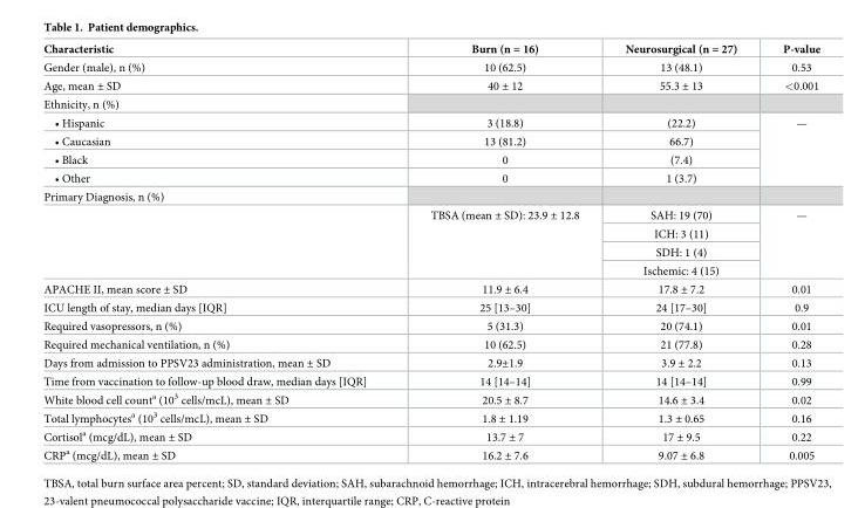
<table><thead><tr><td>Characteristic</td><td>Burn (n = 16)</td><td>Neurosurgical (n = 27)</td><td>P-value</td></tr></thead><tbody><tr><td>Gender (male), n (%)</td><td>10 (62.5)</td><td>13 (48.1)</td><td>0.53</td></tr><tr><td>Age, mean ± SD</td><td>40 ± 12</td><td>55.3 ± 13</td><td>&lt;0.001</td></tr><tr><td colspan="4">Ethnicity, n (%)</td></tr><tr><td>• Hispanic</td><td>3 (18.8)</td><td>(22.2)</td><td rowspan="4">—</td></tr><tr><td>• Caucasian</td><td>13 (81.2)</td><td>66.7)</td></tr><tr><td>• Black</td><td>0</td><td>(7.4)</td></tr><tr><td>• Other</td><td>0</td><td>1 (3.7)</td></tr><tr><td colspan="4">Primary Diagnosis, n (%)</td></tr><tr><td rowspan="4"></td><td rowspan="4">TBSA (mean ± SD): 23.9 ± 12.8</td><td>SAH: 19 (70)</td><td rowspan="4">—</td></tr><tr><td>ICH: 3 (11)</td></tr><tr><td>SDH: 1 (4)</td></tr><tr><td>Ischemic: 4 (15)</td></tr><tr><td>APACHE II, mean score ± SD</td><td>11.9 ± 6.4</td><td>17.8 ± 7.2</td><td>0.01</td></tr><tr><td>ICU length of stay, median days [IQR]</td><td>25 [13–30]</td><td>24 [17–30]</td><td>0.9</td></tr><tr><td>Required vasopressors, n (%)</td><td>5 (31.3)</td><td>20 (74.1)</td><td>0.01</td></tr><tr><td>Required mechanical ventilation, n (%)</td><td>10 (62.5)</td><td>21 (77.8)</td><td>0.28</td></tr><tr><td>Days from admission to PPSV23 administration, mean ± SD</td><td>2.9±1.9</td><td>3.9 ± 2.2</td><td>0.13</td></tr><tr><td>Time from vaccination to follow-up blood draw, median days [IQR]</td><td>14 [14–14]</td><td>14 [14–14]</td><td>0.99</td></tr><tr><td>White blood cell count<sup>a</sup> (10<sup>3</sup> cells/mcL), mean ± SD</td><td>20.5 ± 8.7</td><td>14.6 ± 3.4</td><td>0.02</td></tr><tr><td>Total lymphocytes<sup>a</sup> (10<sup>3</sup> cells/mcL), mean ± SD</td><td>1.8 ± 1.19</td><td>1.3 ± 0.65</td><td>0.16</td></tr><tr><td>Cortisol<sup>a</sup> (mcg/dL), mean ± SD</td><td>13.7 ± 7</td><td>17 ± 9.5</td><td>0.22</td></tr><tr><td>CRP<sup>a</sup> (mcg/dL), mean ± SD</td><td>16.2 ± 7.6</td><td>9.07 ± 6.8</td><td>0.005</td></tr></tbody></table>